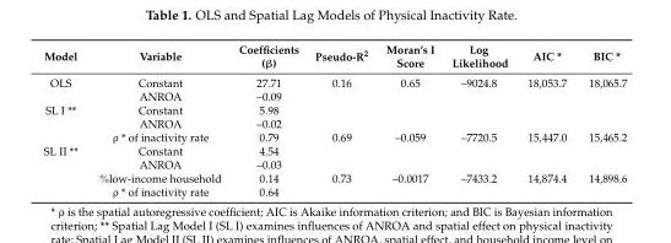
<table><thead><tr><td>Model</td><td>Variable</td><td>Coefficients (β)</td><td>Pseudo-R<sup>2</sup></td><td>Moran’s I Score</td><td>Log Likelihood</td><td>AIC *</td><td>BIC *</td></tr></thead><tbody><tr><td rowspan="2">OLS</td><td>Constant</td><td>27.71</td><td>0.16</td><td>0.65</td><td>–9024.8</td><td>18,053.7</td><td>18,065.7</td></tr><tr><td>ANROA</td><td>–0.09</td><td></td><td></td><td></td><td></td><td></td></tr><tr><td rowspan="3">SL I **</td><td>Constant</td><td>5.98</td><td></td><td></td><td></td><td></td><td></td></tr><tr><td>ANROA</td><td>–0.02</td><td></td><td></td><td></td><td></td><td></td></tr><tr><td>ρ * of inactivity rate</td><td>0.79</td><td>0.69</td><td>–0.059</td><td>–7720.5</td><td>15,447.0</td><td>15,465.2</td></tr><tr><td rowspan="4">SL II **</td><td>Constant</td><td>4.54</td><td></td><td></td><td></td><td></td><td></td></tr><tr><td>ANROA</td><td>–0.03</td><td></td><td></td><td></td><td></td><td></td></tr><tr><td>%low-income household</td><td>0.14</td><td>0.73</td><td>–0.0017</td><td>–7433.2</td><td>14,874.4</td><td>14,898.6</td></tr><tr><td>ρ * of inactivity rate</td><td>0.64</td><td></td><td></td><td></td><td></td><td></td></tr></tbody></table>